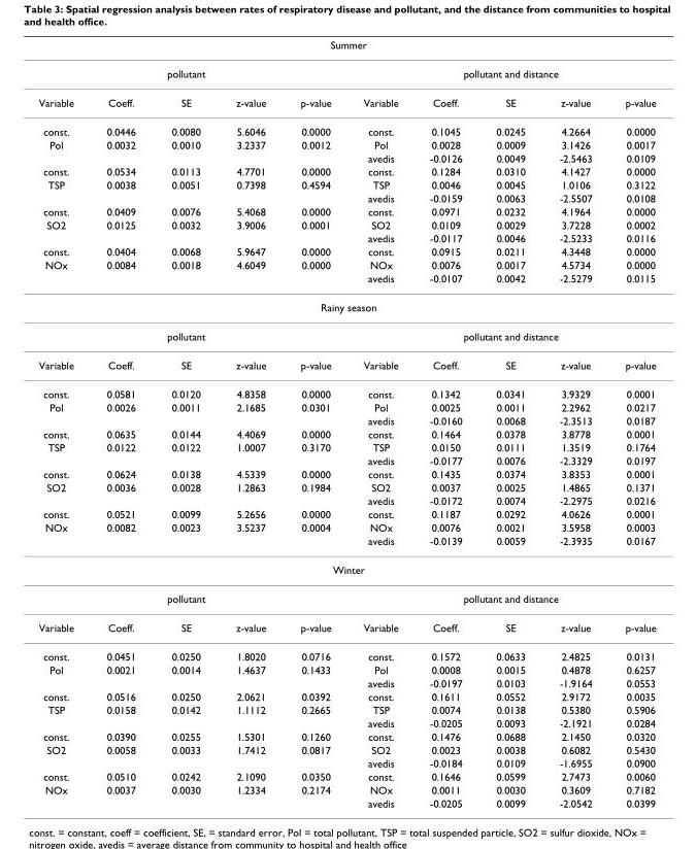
<table><thead><tr><td colspan="10">Summer</td></tr><tr><td colspan="5">pollutant</td><td colspan="5">pollutant and distance</td></tr><tr><td>Variable</td><td>Coeff.</td><td>SE</td><td>z-value</td><td>p-value</td><td>Variable</td><td>Coeff.</td><td>SE</td><td>z-value</td><td>p-value</td></tr></thead><tbody><tr><td>const.</td><td>0.0446</td><td>0.0080</td><td>5.6046</td><td>0.0000</td><td>const.</td><td>0.1045</td><td>0.0245</td><td>4.2664</td><td>0.0000</td></tr><tr><td rowspan="2">Pol</td><td>0.0032</td><td>0.0010</td><td>3.2337</td><td>0.0012</td><td>Pol</td><td>0.0028</td><td>0.0009</td><td>3.1426</td><td>0.0017</td></tr><tr><td></td><td></td><td></td><td></td><td>avedis</td><td>-0.0126</td><td>0.0049</td><td>-2.5463</td><td>0.0109</td></tr><tr><td>const.</td><td>0.0534</td><td>0.0113</td><td>4.7701</td><td>0.0000</td><td>const.</td><td>0.1284</td><td>0.0310</td><td>4.1427</td><td>0.0000</td></tr><tr><td rowspan="2">TSP</td><td>0.0038</td><td>0.0051</td><td>0.7398</td><td>0.4594</td><td>TSP</td><td>0.0046</td><td>0.0045</td><td>1.0106</td><td>0.3122</td></tr><tr><td></td><td></td><td></td><td></td><td>avedis</td><td>-0.0159</td><td>0.0063</td><td>-2.5507</td><td>0.0108</td></tr><tr><td>const.</td><td>0.0409</td><td>0.0076</td><td>5.4068</td><td>0.0000</td><td>const.</td><td>0.0971</td><td>0.0232</td><td>4.1964</td><td>0.0000</td></tr><tr><td rowspan="2">SO2</td><td>0.0125</td><td>0.0032</td><td>3.9006</td><td>0.0001</td><td>SO2</td><td>0.0109</td><td>0.0029</td><td>3.7228</td><td>0.0002</td></tr><tr><td></td><td></td><td></td><td></td><td>avedis</td><td>-0.0117</td><td>0.0046</td><td>-2.5233</td><td>0.0116</td></tr><tr><td>const.</td><td>0.0404</td><td>0.0068</td><td>5.9647</td><td>0.0000</td><td>const.</td><td>0.0915</td><td>0.0211</td><td>4.3448</td><td>0.0000</td></tr><tr><td rowspan="2">NOx</td><td>0.0084</td><td>0.0018</td><td>4.6049</td><td>0.0000</td><td>NOx</td><td>0.0076</td><td>0.0017</td><td>4.5734</td><td>0.0000</td></tr><tr><td></td><td></td><td></td><td></td><td>avedis</td><td>-0.0107</td><td>0.0042</td><td>-2.5279</td><td>0.0115</td></tr><tr><td colspan="10">Rainy season</td></tr><tr><td colspan="5">pollutant</td><td colspan="5">pollutant and distance</td></tr><tr><td>Variable</td><td>Coeff.</td><td>SE</td><td>z-value</td><td>p-value</td><td>Variable</td><td>Coeff.</td><td>SE</td><td>z-value</td><td>p-value</td></tr><tr><td>const.</td><td>0.0581</td><td>0.0120</td><td>4.8358</td><td>0.0000</td><td>const.</td><td>0.1342</td><td>0.0341</td><td>3.9329</td><td>0.0001</td></tr><tr><td rowspan="2">Pol</td><td>0.0026</td><td>0.0011</td><td>2.1685</td><td>0.0301</td><td>Pol</td><td>0.0025</td><td>0.0011</td><td>2.2962</td><td>0.0217</td></tr><tr><td></td><td></td><td></td><td></td><td>avedis</td><td>-0.0160</td><td>0.0068</td><td>-2.3513</td><td>0.0187</td></tr><tr><td>const.</td><td>0.0635</td><td>0.0144</td><td>4.4069</td><td>0.0000</td><td>const.</td><td>0.1464</td><td>0.0378</td><td>3.8778</td><td>0.0001</td></tr><tr><td rowspan="2">TSP</td><td>0.0122</td><td>0.0122</td><td>1.0007</td><td>0.3170</td><td>TSP</td><td>0.0150</td><td>0.0111</td><td>1.3519</td><td>0.1764</td></tr><tr><td></td><td></td><td></td><td></td><td>avedis</td><td>-0.0177</td><td>0.0076</td><td>-2.3329</td><td>0.0197</td></tr><tr><td>const.</td><td>0.0624</td><td>0.0138</td><td>4.5339</td><td>0.0000</td><td>const.</td><td>0.1435</td><td>0.0374</td><td>3.8353</td><td>0.0001</td></tr><tr><td rowspan="2">SO2</td><td>0.0036</td><td>0.0028</td><td>1.2863</td><td>0.1984</td><td>SO2</td><td>0.0037</td><td>0.0025</td><td>1.4865</td><td>0.1371</td></tr><tr><td></td><td></td><td></td><td></td><td>avedis</td><td>-0.0172</td><td>0.0074</td><td>-2.2975</td><td>0.0216</td></tr><tr><td>const.</td><td>0.0521</td><td>0.0099</td><td>5.2656</td><td>0.0000</td><td>const.</td><td>0.1187</td><td>0.0292</td><td>4.0626</td><td>0.0001</td></tr><tr><td rowspan="2">NOx</td><td>0.0082</td><td>0.0023</td><td>3.5237</td><td>0.0004</td><td>NOx</td><td>0.0076</td><td>0.0021</td><td>3.5958</td><td>0.0003</td></tr><tr><td></td><td></td><td></td><td></td><td>avedis</td><td>-0.0139</td><td>0.0059</td><td>-2.3935</td><td>0.0167</td></tr><tr><td colspan="10">Winter</td></tr><tr><td colspan="5">pollutant</td><td colspan="5">pollutant and distance</td></tr><tr><td>Variable</td><td>Coeff.</td><td>SE</td><td>z-value</td><td>p-value</td><td>Variable</td><td>Coeff.</td><td>SE</td><td>z-value</td><td>p-value</td></tr><tr><td>const.</td><td>0.0451</td><td>0.0250</td><td>1.8020</td><td>0.0716</td><td>const.</td><td>0.1572</td><td>0.0633</td><td>2.4825</td><td>0.0131</td></tr><tr><td rowspan="2">Pol</td><td>0.0021</td><td>0.0014</td><td>1.4637</td><td>0.1433</td><td>Pol</td><td>0.0008</td><td>0.0015</td><td>0.4878</td><td>0.6257</td></tr><tr><td></td><td></td><td></td><td></td><td>avedis</td><td>-0.0197</td><td>0.0103</td><td>-1.9164</td><td>0.0553</td></tr><tr><td>const.</td><td>0.0516</td><td>0.0250</td><td>2.0621</td><td>0.0392</td><td>const.</td><td>0.1611</td><td>0.0552</td><td>2.9172</td><td>0.0035</td></tr><tr><td rowspan="2">TSP</td><td>0.0158</td><td>0.0142</td><td>1.1112</td><td>0.2665</td><td>TSP</td><td>0.0074</td><td>0.0138</td><td>0.5380</td><td>0.5906</td></tr><tr><td></td><td></td><td></td><td></td><td>avedis</td><td>-0.0205</td><td>0.0093</td><td>-2.1921</td><td>0.0284</td></tr><tr><td>const.</td><td>0.0390</td><td>0.0255</td><td>1.5301</td><td>0.1260</td><td>const.</td><td>0.1476</td><td>0.0688</td><td>2.1450</td><td>0.0320</td></tr><tr><td rowspan="2">SO2</td><td>0.0058</td><td>0.0033</td><td>1.7412</td><td>0.0817</td><td>SO2</td><td>0.0023</td><td>0.0038</td><td>0.6082</td><td>0.5430</td></tr><tr><td></td><td></td><td></td><td></td><td>avedis</td><td>-0.0184</td><td>0.0109</td><td>-1.6955</td><td>0.0900</td></tr><tr><td>const.</td><td>0.0510</td><td>0.0242</td><td>2.1090</td><td>0.0350</td><td>const.</td><td>0.1646</td><td>0.0599</td><td>2.7473</td><td>0.0060</td></tr><tr><td rowspan="2">NOx</td><td>0.0037</td><td>0.0030</td><td>1.2334</td><td>0.2174</td><td>NOx</td><td>0.0011</td><td>0.0030</td><td>0.3609</td><td>0.7182</td></tr><tr><td></td><td></td><td></td><td></td><td>avedis</td><td>-0.0205</td><td>0.0099</td><td>-2.0542</td><td>0.0399</td></tr></tbody></table>